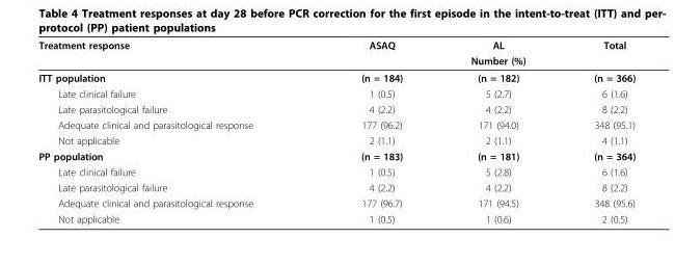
<table><thead><tr><td rowspan="2">Treatment response</td><td>ASAQ</td><td>AL</td><td>Total</td></tr><tr><td colspan="3">Number (%)</td></tr></thead><tbody><tr><td>ITT population</td><td>(n = 184)</td><td>(n = 182)</td><td>(n = 366)</td></tr><tr><td>Late clinical failure</td><td>1 (0.5)</td><td>5 (2.7)</td><td>6 (1.6)</td></tr><tr><td>Late parasitological failure</td><td>4 (2.2)</td><td>4 (2.2)</td><td>8 (2.2)</td></tr><tr><td>Adequate clinical and parasitological response</td><td>177 (96.2)</td><td>171 (94.0)</td><td>348 (95.1)</td></tr><tr><td>Not applicable</td><td>2 (1.1)</td><td>2 (1.1)</td><td>4 (1.1)</td></tr><tr><td>PP population</td><td>(n = 183)</td><td>(n = 181)</td><td>(n = 364)</td></tr><tr><td>Late clinical failure</td><td>1 (0.5)</td><td>5 (2.8)</td><td>6 (1.6)</td></tr><tr><td>Late parasitological failure</td><td>4 (2.2)</td><td>4 (2.2)</td><td>8 (2.2)</td></tr><tr><td>Adequate clinical and parasitological response</td><td>177 (96.7)</td><td>171 (94.5)</td><td>348 (95.6)</td></tr><tr><td>Not applicable</td><td>1 (0.5)</td><td>1 (0.6)</td><td>2 (0.5)</td></tr></tbody></table>